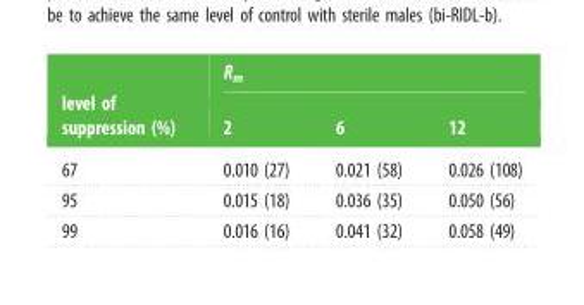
<table><thead><tr><td rowspan="2">level of suppression (%)</td><td colspan="3">R<sub>m</sub></td></tr><tr><td>2</td><td>6</td><td>12</td></tr></thead><tbody><tr><td>67</td><td>0.010 (27)</td><td>0.021 (58)</td><td>0.026 (108)</td></tr><tr><td>95</td><td>0.015 (18)</td><td>0.036 (35)</td><td>0.050 (56)</td></tr><tr><td>99</td><td>0.016 (16)</td><td>0.041 (32)</td><td>0.058 (49)</td></tr></tbody></table>